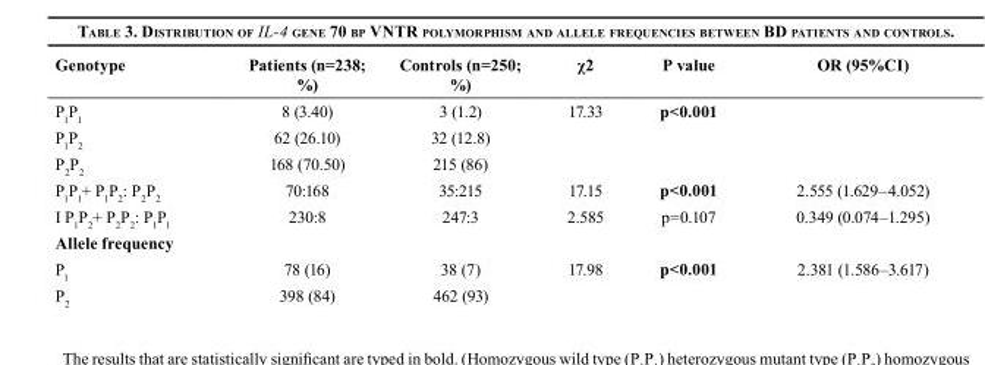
<table><thead><tr><td>Genotype</td><td>Patients (n=238; %)</td><td>Controls (n=250; %)</td><td>χ2</td><td>P value</td><td>OR (95%CI)</td></tr></thead><tbody><tr><td>P<sub>1</sub>P<sub>1</sub></td><td>8 (3.40)</td><td>3 (1.2)</td><td>17.33</td><td>p&lt;0.001</td><td></td></tr><tr><td>P<sub>1</sub>P<sub>2</sub></td><td>62 (26.10)</td><td>32 (12.8)</td><td></td><td></td><td></td></tr><tr><td>P<sub>2</sub>P<sub>2</sub></td><td>168 (70.50)</td><td>215 (86)</td><td></td><td></td><td></td></tr><tr><td>P<sub>1</sub>P<sub>1</sub>+ P<sub>1</sub>P<sub>2</sub>: P<sub>2</sub>P<sub>2</sub></td><td>70:168</td><td>35:215</td><td>17.15</td><td>p&lt;0.001</td><td>2.555 (1.629–4.052)</td></tr><tr><td>I P<sub>1</sub>P<sub>2</sub>+ P<sub>2</sub>P<sub>2</sub>: P<sub>1</sub>P<sub>1</sub></td><td>230:8</td><td>247:3</td><td>2.585</td><td>p=0.107</td><td>0.349 (0.074–1.295)</td></tr><tr><td colspan="6">Allele frequency</td></tr><tr><td>P<sub>1</sub></td><td>78 (16)</td><td>38 (7)</td><td>17.98</td><td>p&lt;0.001</td><td>2.381 (1.586–3.617)</td></tr><tr><td>P<sub>2</sub></td><td>398 (84)</td><td>462 (93)</td><td></td><td></td><td></td></tr></tbody></table>